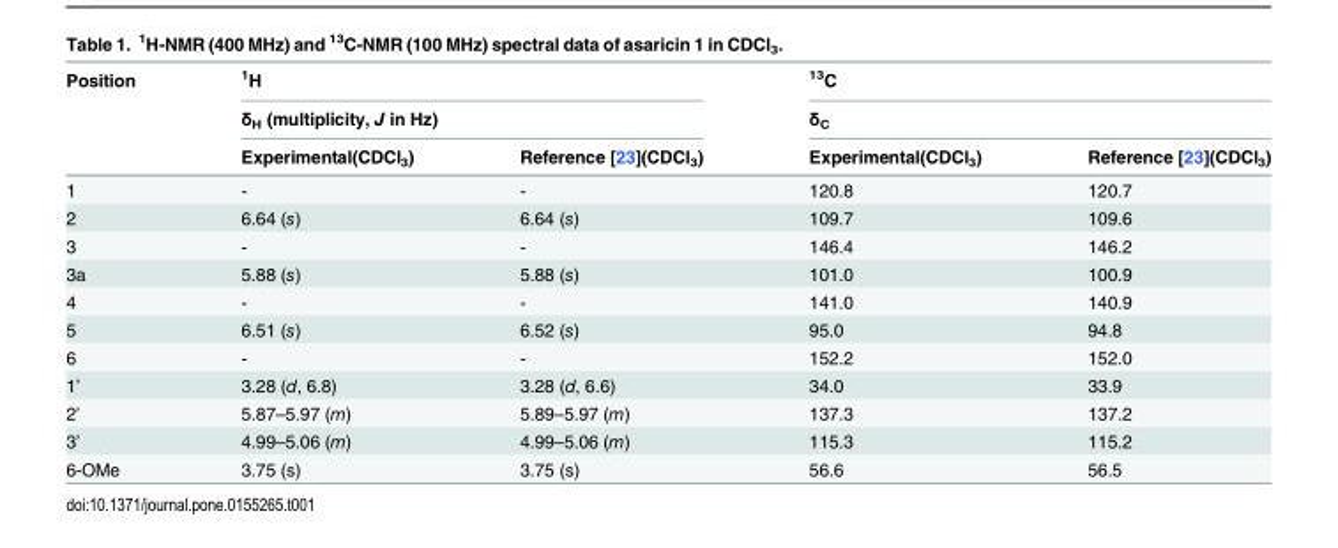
<table><thead><tr><td rowspan="3">Position</td><td rowspan="2" colspan="2"><sup>1</sup>H δ<sub>H</sub> (multiplicity, J in Hz)</td><td rowspan="2" colspan="2"><sup>13</sup>C δ<sub>C</sub></td></tr><tr></tr><tr><td>Experimental(CDCl<sub>3</sub>)</td><td>Reference [23](CDCl<sub>3</sub>)</td><td>Experimental(CDCl<sub>3</sub>)</td><td>Reference [23](CDCl<sub>3</sub>)</td></tr></thead><tbody><tr><td>1</td><td>-</td><td>-</td><td>120.8</td><td>120.7</td></tr><tr><td>2</td><td>6.64 (s)</td><td>6.64 (s)</td><td>109.7</td><td>109.6</td></tr><tr><td>3</td><td>-</td><td>-</td><td>146.4</td><td>146.2</td></tr><tr><td>3a</td><td>5.88 (s)</td><td>5.88 (s)</td><td>101.0</td><td>100.9</td></tr><tr><td>4</td><td>-</td><td>-</td><td>141.0</td><td>140.9</td></tr><tr><td>5</td><td>6.51 (s)</td><td>6.52 (s)</td><td>95.0</td><td>94.8</td></tr><tr><td>6</td><td>-</td><td>-</td><td>152.2</td><td>152.0</td></tr><tr><td>1’</td><td>3.28 (d, 6.8)</td><td>3.28 (d, 6.6)</td><td>34.0</td><td>33.9</td></tr><tr><td>2’</td><td>5.87–5.97 (m)</td><td>5.89–5.97 (m)</td><td>137.3</td><td>137.2</td></tr><tr><td>3’</td><td>4.99–5.06 (m)</td><td>4.99–5.06 (m)</td><td>115.3</td><td>115.2</td></tr><tr><td>6-OMe</td><td>3.75 (s)</td><td>3.75 (s)</td><td>56.6</td><td>56.5</td></tr></tbody></table>